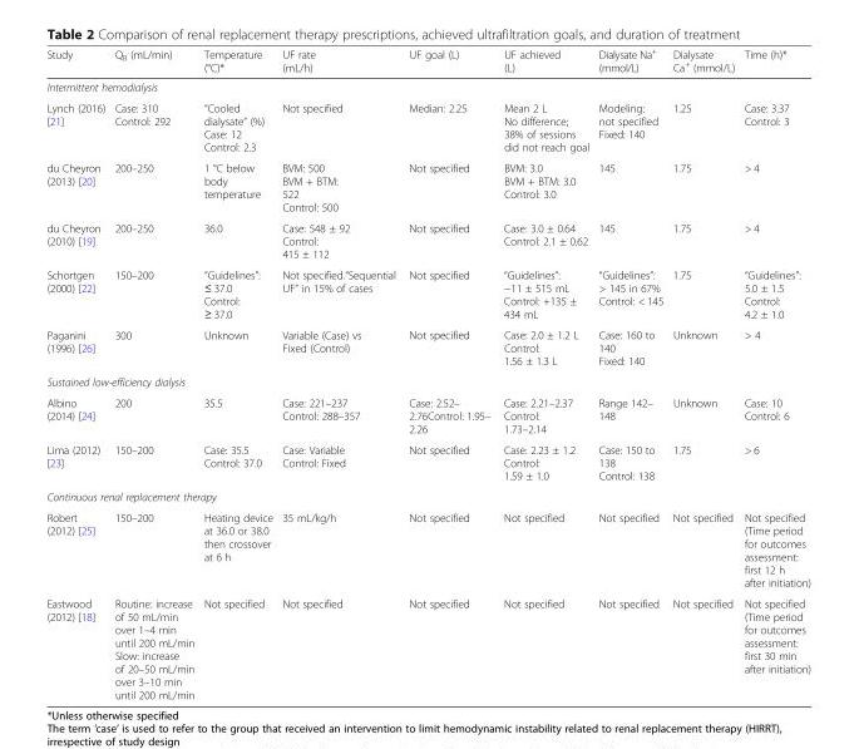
<table><thead><tr><td>Study</td><td>Q<sub>B</sub> (mL/min)</td><td>Temperature (°C)*</td><td>UF rate (mL/h)</td><td>UF goal (L)</td><td>UF achieved (L)</td><td>Dialysate Na<sup>+</sup> (mmol/L)</td><td>Dialysate Ca<sup>+</sup> (mmol/L)</td><td>Time (h)*</td></tr></thead><tbody><tr><td colspan="9">Intermittent hemodialysis</td></tr><tr><td>Lynch (2016) [21]</td><td>Case: 310 Control: 292</td><td>“Cooled dialysate” (%) Case: 12 Control: 2.3</td><td>Not specified</td><td>Median: 2.25</td><td>Mean 2 L No difference; 38% of sessions did not reach goal</td><td>Modeling: not specified Fixed: 140</td><td>1.25</td><td>Case: 3.37 Control: 3</td></tr><tr><td>du Cheyron (2013) [20]</td><td>200–250</td><td>1 °C below body temperature</td><td>BVM: 500 BVM + BTM: 522 Control: 500</td><td>Not specified</td><td>BVM: 3.0 BVM + BTM: 3.0 Control: 3.0</td><td>145</td><td>1.75</td><td>&gt; 4</td></tr><tr><td>du Cheyron (2010) [19]</td><td>200–250</td><td>36.0</td><td>Case: 548 ± 92 Control: 415 ± 112</td><td>Not specified</td><td>Case: 3.0 ± 0.64 Control: 2.1 ± 0.62</td><td>145</td><td>1.75</td><td>&gt; 4</td></tr><tr><td>Schortgen (2000) [22]</td><td>150–200</td><td>“Guidelines”: ≤ 37.0 Control: ≥ 37.0</td><td>Not specified.“Sequential UF” in 15% of cases</td><td>Not specified</td><td>“Guidelines”: −11 ± 515 mL Control: +135 ± 434 mL</td><td>“Guidelines”: &gt; 145 in 67% Control: &lt; 145</td><td>1.75</td><td>“Guidelines”: 5.0 ± 1.5 Control: 4.2 ± 1.0</td></tr><tr><td>Paganini (1996) [26]</td><td>300</td><td>Unknown</td><td>Variable (Case) vs Fixed (Control)</td><td>Not specified</td><td>Case: 2.0 ± 1.2 L Control: 1.56 ± 1.3 L</td><td>Case: 160 to 140 Fixed: 140</td><td>Unknown</td><td>&gt; 4</td></tr><tr><td colspan="9">Sustained low-efficiency dialysis</td></tr><tr><td>Albino (2014) [24]</td><td>200</td><td>35.5</td><td>Case: 221–237 Control: 288–357</td><td>Case: 2.52– 2.76Control: 1.95– 2.26</td><td>Case: 2.21–2.37 Control: 1.73–2.14</td><td>Range 142– 148</td><td>Unknown</td><td>Case: 10 Control: 6</td></tr><tr><td>Lima (2012) [23]</td><td>150–200</td><td>Case: 35.5 Control: 37.0</td><td>Case: Variable Control: Fixed</td><td>Not specified</td><td>Case: 2.23 ± 1.2 Control: 1.59 ± 1.0</td><td>Case: 150 to 138 Control: 138</td><td>1.75</td><td>&gt; 6</td></tr><tr><td colspan="9">Continuous renal replacement therapy</td></tr><tr><td>Robert (2012) [25]</td><td>150–200</td><td>Heating device at 36.0 or 38.0 then crossover at 6 h</td><td>35 mL/kg/h</td><td>Not specified</td><td>Not specified</td><td>Not specified</td><td>Not specified</td><td>Not specified (Time period for outcomes assessment: first 12 h after initiation)</td></tr><tr><td>Eastwood (2012) [18]</td><td>Routine: increase of 50 mL/min over 1–4 min until 200 mL/min Slow: increase of 20–50 mL/min over 3–10 min until 200 mL/min</td><td>Not specified</td><td>Not specified</td><td>Not specified</td><td>Not specified</td><td>Not specified</td><td>Not specified</td><td>Not specified (Time period for outcomes assessment: first 30 min after initiation)</td></tr></tbody></table>